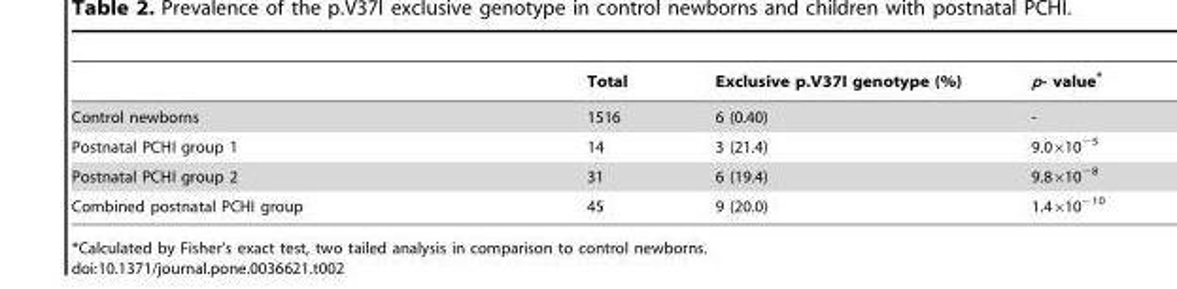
<table><thead><tr><td></td><td>Total</td><td>Exclusive p.V37I genotype (%)</td><td>p- value*</td></tr></thead><tbody><tr><td>Control newborns</td><td>1516</td><td>6 (0.40)</td><td>-</td></tr><tr><td>Postnatal PCHI group 1</td><td>14</td><td>3 (21.4)</td><td>9.0×10<sup>−5</sup></td></tr><tr><td>Postnatal PCHI group 2</td><td>31</td><td>6 (19.4)</td><td>9.8×10<sup>−8</sup></td></tr><tr><td>Combined postnatal PCHI group</td><td>45</td><td>9 (20.0)</td><td>1.4×10<sup>−10</sup></td></tr></tbody></table>